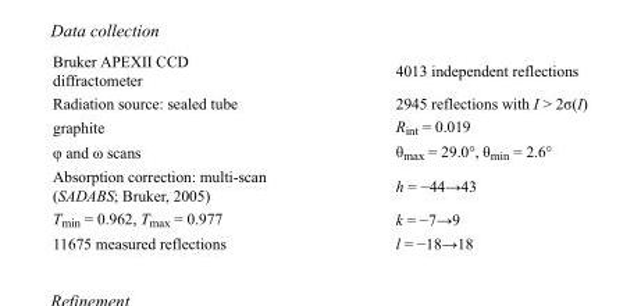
<table><tbody><tr><td>Bruker APEXII CCD diffractometer</td><td>4013 independent reflections</td></tr><tr><td>Radiation source: sealed tube</td><td>2945 reflections with I &gt; 2σ(I)</td></tr><tr><td>graphite</td><td>R<sub>int</sub> = 0.019</td></tr><tr><td>φ and ω scans</td><td>θ<sub>max</sub> = 29.0°, θ<sub>min</sub> = 2.6°</td></tr><tr><td>Absorption correction: multi-scan (SADABS; Bruker, 2005)</td><td>h = −44→43</td></tr><tr><td>T<sub>min</sub> = 0.962, T<sub>max</sub> = 0.977</td><td>k = −7→9</td></tr><tr><td>11675 measured reflections</td><td>l = −18→18</td></tr></tbody></table>